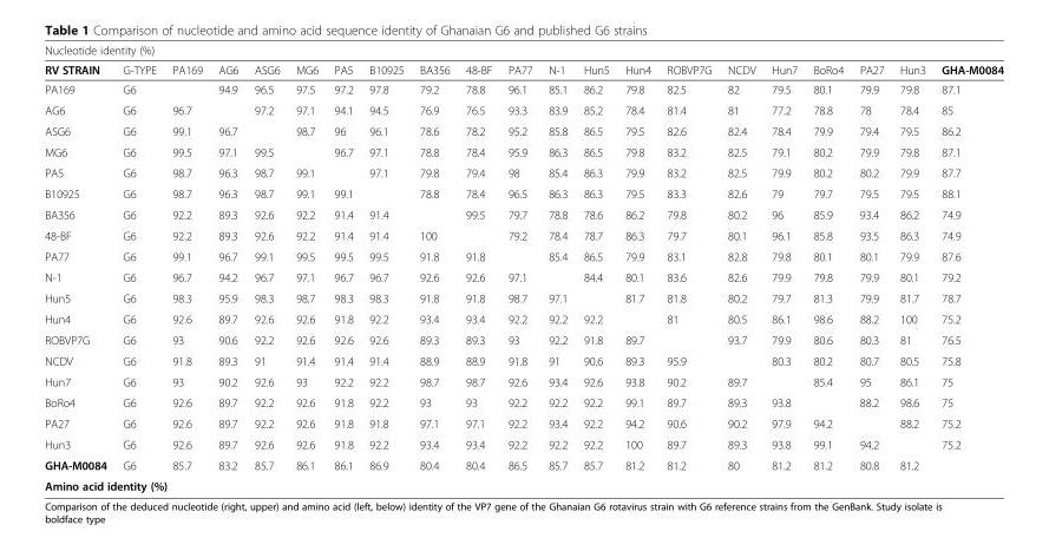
<table><thead><tr><td colspan="21">Nucleotide identity (%)</td></tr><tr><td>RV STRAIN</td><td>G-TYPE</td><td>PA169</td><td>AG6</td><td>ASG6</td><td>MG6</td><td>PA5</td><td>B10925</td><td>BA356</td><td>48-BF</td><td>PA77</td><td>N-1</td><td>Hun5</td><td>Hun4</td><td>ROBVP7G</td><td>NCDV</td><td>Hun7</td><td>BoRo4</td><td>PA27</td><td>Hun3</td><td>GHA-M0084</td></tr></thead><tbody><tr><td>PA169</td><td>G6</td><td></td><td>94.9</td><td>96.5</td><td>97.5</td><td>97.2</td><td>97.8</td><td>79.2</td><td>78.8</td><td>96.1</td><td>85.1</td><td>86.2</td><td>79.8</td><td>82.5</td><td>82</td><td>79.5</td><td>80.1</td><td>79.9</td><td>79.8</td><td>87.1</td></tr><tr><td>AG6</td><td>G6</td><td>96.7</td><td></td><td>97.2</td><td>97.1</td><td>94.1</td><td>94.5</td><td>76.9</td><td>76.5</td><td>93.3</td><td>83.9</td><td>85.2</td><td>78.4</td><td>81.4</td><td>81</td><td>77.2</td><td>78.8</td><td>78</td><td>78.4</td><td>85</td></tr><tr><td>ASG6</td><td>G6</td><td>99.1</td><td>96.7</td><td></td><td>98.7</td><td>96</td><td>96.1</td><td>78.6</td><td>78.2</td><td>95.2</td><td>85.8</td><td>86.5</td><td>79.5</td><td>82.6</td><td>82.4</td><td>78.4</td><td>79.9</td><td>79.4</td><td>79.5</td><td>86.2</td></tr><tr><td>MG6</td><td>G6</td><td>99.5</td><td>97.1</td><td>99.5</td><td></td><td>96.7</td><td>97.1</td><td>78.8</td><td>78.4</td><td>95.9</td><td>86.3</td><td>86.5</td><td>79.8</td><td>83.2</td><td>82.5</td><td>79.1</td><td>80.2</td><td>79.9</td><td>79.8</td><td>87.1</td></tr><tr><td>PA5</td><td>G6</td><td>98.7</td><td>96.3</td><td>98.7</td><td>99.1</td><td></td><td>97.1</td><td>79.8</td><td>79.4</td><td>98</td><td>85.4</td><td>86.3</td><td>79.9</td><td>83.2</td><td>82.5</td><td>79.9</td><td>80.2</td><td>80.2</td><td>79.9</td><td>87.7</td></tr><tr><td>B10925</td><td>G6</td><td>98.7</td><td>96.3</td><td>98.7</td><td>99.1</td><td>99.1</td><td></td><td>78.8</td><td>78.4</td><td>96.5</td><td>86.3</td><td>86.3</td><td>79.5</td><td>83.3</td><td>82.6</td><td>79</td><td>79.7</td><td>79.5</td><td>79.5</td><td>88.1</td></tr><tr><td>BA356</td><td>G6</td><td>92.2</td><td>89.3</td><td>92.6</td><td>92.2</td><td>91.4</td><td>91.4</td><td></td><td>99.5</td><td>79.7</td><td>78.8</td><td>78.6</td><td>86.2</td><td>79.8</td><td>80.2</td><td>96</td><td>85.9</td><td>93.4</td><td>86.2</td><td>74.9</td></tr><tr><td>48-BF</td><td>G6</td><td>92.2</td><td>89.3</td><td>92.6</td><td>92.2</td><td>91.4</td><td>91.4</td><td>100</td><td></td><td>79.2</td><td>78.4</td><td>78.7</td><td>86.3</td><td>79.7</td><td>80.1</td><td>96.1</td><td>85.8</td><td>93.5</td><td>86.3</td><td>74.9</td></tr><tr><td>PA77</td><td>G6</td><td>99.1</td><td>96.7</td><td>99.1</td><td>99.5</td><td>99.5</td><td>99.5</td><td>91.8</td><td>91.8</td><td></td><td>85.4</td><td>86.5</td><td>79.9</td><td>83.1</td><td>82.8</td><td>79.8</td><td>80.1</td><td>80.1</td><td>79.9</td><td>87.6</td></tr><tr><td>N-1</td><td>G6</td><td>96.7</td><td>94.2</td><td>96.7</td><td>97.1</td><td>96.7</td><td>96.7</td><td>92.6</td><td>92.6</td><td>97.1</td><td></td><td>84.4</td><td>80.1</td><td>83.6</td><td>82.6</td><td>79.9</td><td>79.8</td><td>79.9</td><td>80.1</td><td>79.2</td></tr><tr><td>Hun5</td><td>G6</td><td>98.3</td><td>95.9</td><td>98.3</td><td>98.7</td><td>98.3</td><td>98.3</td><td>91.8</td><td>91.8</td><td>98.7</td><td>97.1</td><td></td><td>81.7</td><td>81.8</td><td>80.2</td><td>79.7</td><td>81.3</td><td>79.9</td><td>81.7</td><td>78.7</td></tr><tr><td>Hun4</td><td>G6</td><td>92.6</td><td>89.7</td><td>92.6</td><td>92.6</td><td>91.8</td><td>92.2</td><td>93.4</td><td>93.4</td><td>92.2</td><td>92.2</td><td>92.2</td><td></td><td>81</td><td>80.5</td><td>86.1</td><td>98.6</td><td>88.2</td><td>100</td><td>75.2</td></tr><tr><td>ROBVP7G</td><td>G6</td><td>93</td><td>90.6</td><td>92.2</td><td>92.6</td><td>92.6</td><td>92.6</td><td>89.3</td><td>89.3</td><td>93</td><td>92.2</td><td>91.8</td><td>89.7</td><td></td><td>93.7</td><td>79.9</td><td>80.6</td><td>80.3</td><td>81</td><td>76.5</td></tr><tr><td>NCDV</td><td>G6</td><td>91.8</td><td>89.3</td><td>91</td><td>91.4</td><td>91.4</td><td>91.4</td><td>88.9</td><td>88.9</td><td>91.8</td><td>91</td><td>90.6</td><td>89.3</td><td>95.9</td><td></td><td>80.3</td><td>80.2</td><td>80.7</td><td>80.5</td><td>75.8</td></tr><tr><td>Hun7</td><td>G6</td><td>93</td><td>90.2</td><td>92.6</td><td>93</td><td>92.2</td><td>92.2</td><td>98.7</td><td>98.7</td><td>92.6</td><td>93.4</td><td>92.6</td><td>93.8</td><td>90.2</td><td>89.7</td><td></td><td>85.4</td><td>95</td><td>86.1</td><td>75</td></tr><tr><td>BoRo4</td><td>G6</td><td>92.6</td><td>89.7</td><td>92.2</td><td>92.6</td><td>91.8</td><td>92.2</td><td>93</td><td>93</td><td>92.2</td><td>92.2</td><td>92.2</td><td>99.1</td><td>89.7</td><td>89.3</td><td>93.8</td><td></td><td>88.2</td><td>98.6</td><td>75</td></tr><tr><td>PA27</td><td>G6</td><td>92.6</td><td>89.7</td><td>92.2</td><td>92.6</td><td>91.8</td><td>91.8</td><td>97.1</td><td>97.1</td><td>92.2</td><td>93.4</td><td>92.2</td><td>94.2</td><td>90.6</td><td>90.2</td><td>97.9</td><td>94.2</td><td></td><td>88.2</td><td>75.2</td></tr><tr><td>Hun3</td><td>G6</td><td>92.6</td><td>89.7</td><td>92.6</td><td>92.6</td><td>91.8</td><td>92.2</td><td>93.4</td><td>93.4</td><td>92.2</td><td>92.2</td><td>92.2</td><td>100</td><td>89.7</td><td>89.3</td><td>93.8</td><td>99.1</td><td>94.2</td><td></td><td>75.2</td></tr><tr><td>GHA-M0084</td><td>G6</td><td>85.7</td><td>83.2</td><td>85.7</td><td>86.1</td><td>86.1</td><td>86.9</td><td>80.4</td><td>80.4</td><td>86.5</td><td>85.7</td><td>85.7</td><td>81.2</td><td>81.2</td><td>80</td><td>81.2</td><td>81.2</td><td>80.8</td><td>81.2</td><td></td></tr><tr><td colspan="21">Amino acid identity (%)</td></tr></tbody></table>